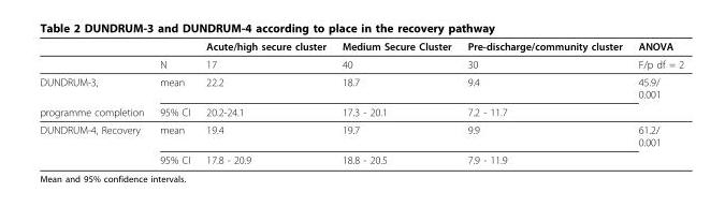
<table><thead><tr><td></td><td></td><td>Acute/high secure cluster</td><td>Medium Secure Cluster</td><td>Pre-discharge/community cluster</td><td>ANOVA</td></tr></thead><tbody><tr><td></td><td>N</td><td>17</td><td>40</td><td>30</td><td>F/p df = 2</td></tr><tr><td>DUNDRUM-3,</td><td>mean</td><td>22.2</td><td>18.7</td><td>9.4</td><td>45.9/ 0.001</td></tr><tr><td>programme completion</td><td>95% CI</td><td>20.2-24.1</td><td>17.3 - 20.1</td><td>7.2 - 11.7</td><td></td></tr><tr><td rowspan="2">DUNDRUM-4, Recovery</td><td>mean</td><td>19.4</td><td>19.7</td><td>9.9</td><td>61.2/ 0.001</td></tr><tr><td>95% CI</td><td>17.8 - 20.9</td><td>18.8 - 20.5</td><td>7.9 - 11.9</td><td></td></tr></tbody></table>